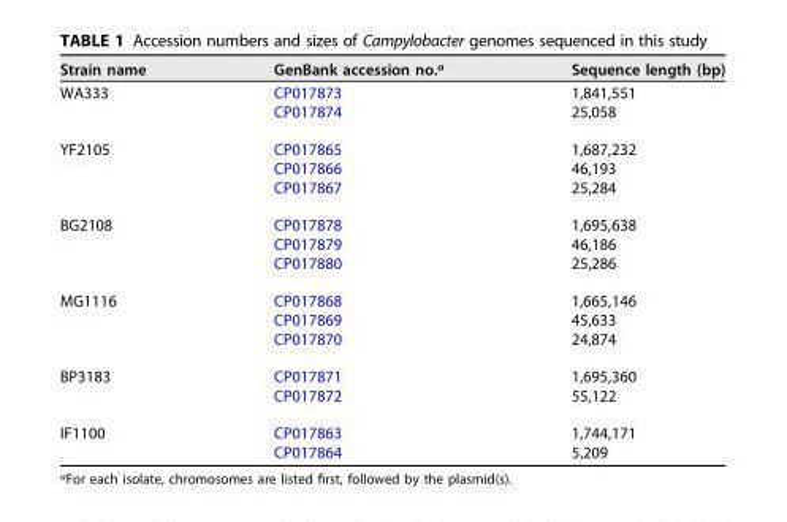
<table><thead><tr><td>Strain name</td><td>GenBank accession no.<sup>a</sup></td><td>Sequence length (bp)</td></tr></thead><tbody><tr><td rowspan="2">WA333</td><td>CP017873</td><td>1,841,551</td></tr><tr><td>CP017874</td><td>25,058</td></tr><tr><td rowspan="3">YF2105</td><td>CP017865</td><td>1,687,232</td></tr><tr><td>CP017866</td><td>46,193</td></tr><tr><td>CP017867</td><td>25,284</td></tr><tr><td rowspan="3">BG2108</td><td>CP017878</td><td>1,695,638</td></tr><tr><td>CP017879</td><td>46,186</td></tr><tr><td>CP017880</td><td>25,286</td></tr><tr><td rowspan="3">MG1116</td><td>CP017868</td><td>1,665,146</td></tr><tr><td>CP017869</td><td>45,633</td></tr><tr><td>CP017870</td><td>24,874</td></tr><tr><td rowspan="2">BP3183</td><td>CP017871</td><td>1,695,360</td></tr><tr><td>CP017872</td><td>55,122</td></tr><tr><td rowspan="2">IF1100</td><td>CP017863</td><td>1,744,171</td></tr><tr><td>CP017864</td><td>5,209</td></tr></tbody></table>